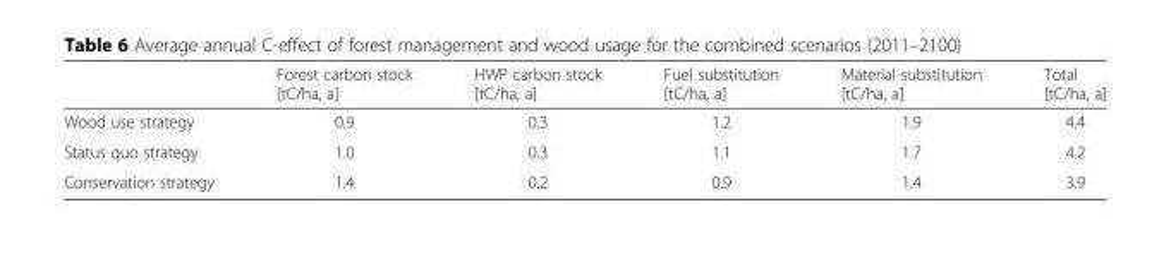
<table><thead><tr><td></td><td>Forest carbon stock [tC/ha, a]</td><td>HWP carbon stock [tC/ha, a]</td><td>Fuel substitution [tC/ha, a]</td><td>Material substitution [tC/ha, a]</td><td>Total [tC/ha, a]</td></tr></thead><tbody><tr><td>Wood use strategy</td><td>0.9</td><td>0.3</td><td>1.2</td><td>1.9</td><td>4.4</td></tr><tr><td>Status quo strategy</td><td>1.0</td><td>0.3</td><td>1.1</td><td>1.7</td><td>4.2</td></tr><tr><td>Conservation strategy</td><td>1.4</td><td>0.2</td><td>0.9</td><td>1.4</td><td>3.9</td></tr></tbody></table>